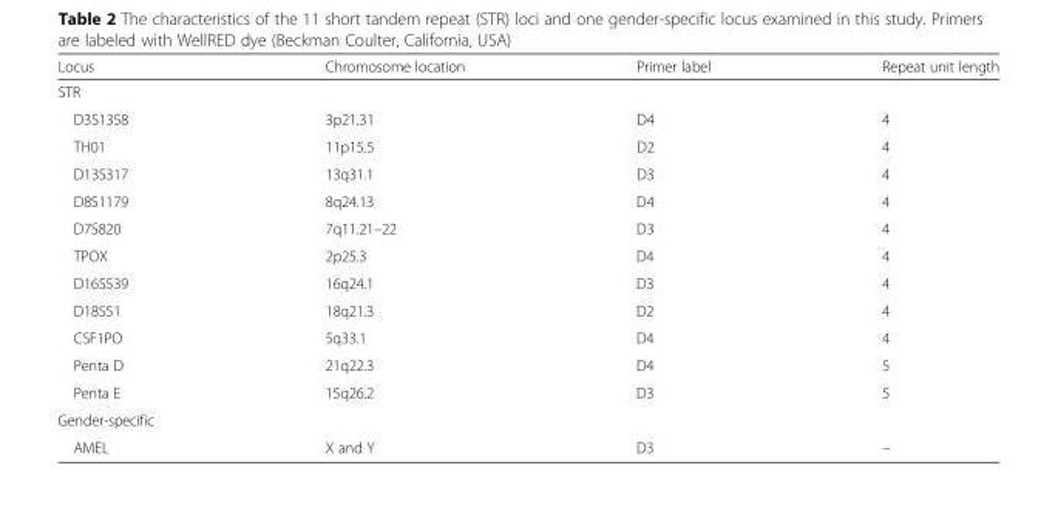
<table><thead><tr><td>Locus</td><td>Chromosome location</td><td>Primer label</td><td>Repeat unit length</td></tr></thead><tbody><tr><td colspan="4">STR</td></tr><tr><td>D3S1358</td><td>3p21.31</td><td>D4</td><td>4</td></tr><tr><td>TH01</td><td>11p15.5</td><td>D2</td><td>4</td></tr><tr><td>D13S317</td><td>13q31.1</td><td>D3</td><td>4</td></tr><tr><td>D8S1179</td><td>8q24.13</td><td>D4</td><td>4</td></tr><tr><td>D7S820</td><td>7q11.21–22</td><td>D3</td><td>4</td></tr><tr><td>TPOX</td><td>2p25.3</td><td>D4</td><td>4</td></tr><tr><td>D16S539</td><td>16q24.1</td><td>D3</td><td>4</td></tr><tr><td>D18S51</td><td>18q21.3</td><td>D2</td><td>4</td></tr><tr><td>CSF1PO</td><td>5q33.1</td><td>D4</td><td>4</td></tr><tr><td>Penta D</td><td>21q22.3</td><td>D4</td><td>5</td></tr><tr><td>Penta E</td><td>15q26.2</td><td>D3</td><td>5</td></tr><tr><td colspan="4">Gender-specific</td></tr><tr><td>AMEL</td><td>X and Y</td><td>D3</td><td>–</td></tr></tbody></table>